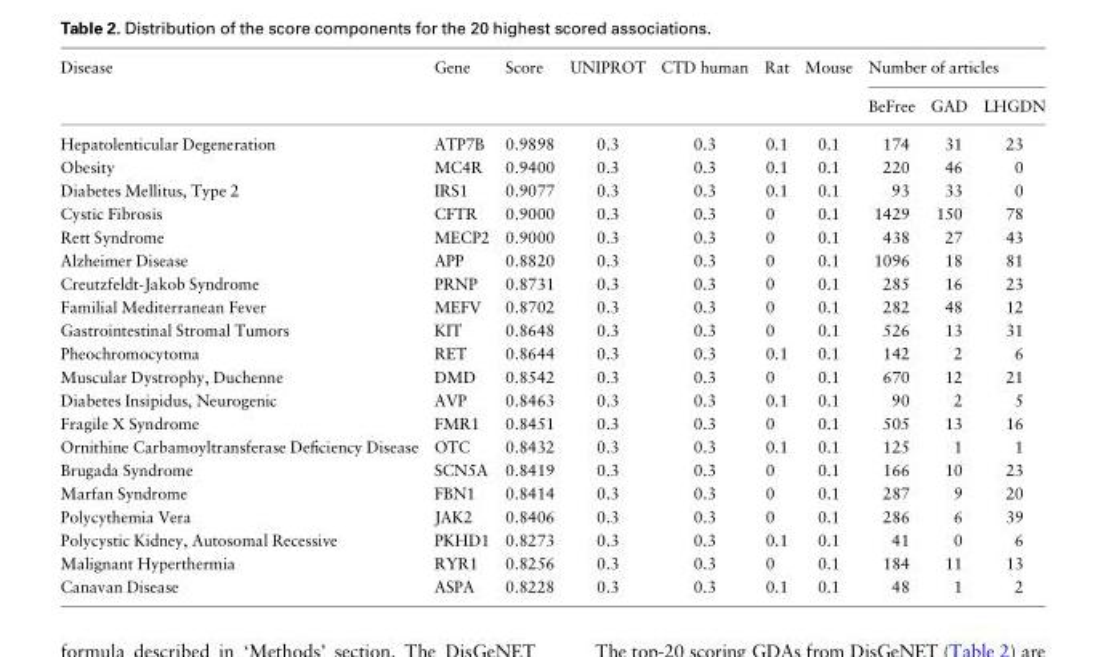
<table><thead><tr><td rowspan="2">Disease</td><td rowspan="2">Gene</td><td rowspan="2">Score</td><td rowspan="2">UNIPROT</td><td rowspan="2">CTD human</td><td rowspan="2">Rat</td><td rowspan="2">Mouse</td><td colspan="3">Number of articles</td></tr><tr><td>BeFree</td><td>GAD</td><td>LHGDN</td></tr></thead><tbody><tr><td>Hepatolenticular Degeneration</td><td>ATP7B</td><td>0.9898</td><td>0.3</td><td>0.3</td><td>0.1</td><td>0.1</td><td>174</td><td>31</td><td>23</td></tr><tr><td>Obesity</td><td>MC4R</td><td>0.9400</td><td>0.3</td><td>0.3</td><td>0.1</td><td>0.1</td><td>220</td><td>46</td><td>0</td></tr><tr><td>Diabetes Mellitus, Type 2</td><td>IRS1</td><td>0.9077</td><td>0.3</td><td>0.3</td><td>0.1</td><td>0.1</td><td>93</td><td>33</td><td>0</td></tr><tr><td>Cystic Fibrosis</td><td>CFTR</td><td>0.9000</td><td>0.3</td><td>0.3</td><td>0</td><td>0.1</td><td>1429</td><td>150</td><td>78</td></tr><tr><td>Rett Syndrome</td><td>MECP2</td><td>0.9000</td><td>0.3</td><td>0.3</td><td>0</td><td>0.1</td><td>438</td><td>27</td><td>43</td></tr><tr><td>Alzheimer Disease</td><td>APP</td><td>0.8820</td><td>0.3</td><td>0.3</td><td>0</td><td>0.1</td><td>1096</td><td>18</td><td>81</td></tr><tr><td>Creutzfeldt-Jakob Syndrome</td><td>PRNP</td><td>0.8731</td><td>0.3</td><td>0.3</td><td>0</td><td>0.1</td><td>285</td><td>16</td><td>23</td></tr><tr><td>Familial Mediterranean Fever</td><td>MEFV</td><td>0.8702</td><td>0.3</td><td>0.3</td><td>0</td><td>0.1</td><td>282</td><td>48</td><td>12</td></tr><tr><td>Gastrointestinal Stromal Tumors</td><td>KIT</td><td>0.8648</td><td>0.3</td><td>0.3</td><td>0</td><td>0.1</td><td>526</td><td>13</td><td>31</td></tr><tr><td>Pheochromocytoma</td><td>RET</td><td>0.8644</td><td>0.3</td><td>0.3</td><td>0.1</td><td>0.1</td><td>142</td><td>2</td><td>6</td></tr><tr><td>Muscular Dystrophy, Duchenne</td><td>DMD</td><td>0.8542</td><td>0.3</td><td>0.3</td><td>0</td><td>0.1</td><td>670</td><td>12</td><td>21</td></tr><tr><td>Diabetes Insipidus, Neurogenic</td><td>AVP</td><td>0.8463</td><td>0.3</td><td>0.3</td><td>0.1</td><td>0.1</td><td>90</td><td>2</td><td>5</td></tr><tr><td>Fragile X Syndrome</td><td>FMR1</td><td>0.8451</td><td>0.3</td><td>0.3</td><td>0</td><td>0.1</td><td>505</td><td>13</td><td>16</td></tr><tr><td>Ornithine Carbamoyltransferase Deficiency Disease</td><td>OTC</td><td>0.8432</td><td>0.3</td><td>0.3</td><td>0.1</td><td>0.1</td><td>125</td><td>1</td><td>1</td></tr><tr><td>Brugada Syndrome</td><td>SCN5A</td><td>0.8419</td><td>0.3</td><td>0.3</td><td>0</td><td>0.1</td><td>166</td><td>10</td><td>23</td></tr><tr><td>Marfan Syndrome</td><td>FBN1</td><td>0.8414</td><td>0.3</td><td>0.3</td><td>0</td><td>0.1</td><td>287</td><td>9</td><td>20</td></tr><tr><td>Polycythemia Vera</td><td>JAK2</td><td>0.8406</td><td>0.3</td><td>0.3</td><td>0</td><td>0.1</td><td>286</td><td>6</td><td>39</td></tr><tr><td>Polycystic Kidney, Autosomal Recessive</td><td>PKHD1</td><td>0.8273</td><td>0.3</td><td>0.3</td><td>0.1</td><td>0.1</td><td>41</td><td>0</td><td>6</td></tr><tr><td>Malignant Hyperthermia</td><td>RYR1</td><td>0.8256</td><td>0.3</td><td>0.3</td><td>0</td><td>0.1</td><td>184</td><td>11</td><td>13</td></tr><tr><td>Canavan Disease</td><td>ASPA</td><td>0.8228</td><td>0.3</td><td>0.3</td><td>0.1</td><td>0.1</td><td>48</td><td>1</td><td>2</td></tr></tbody></table>